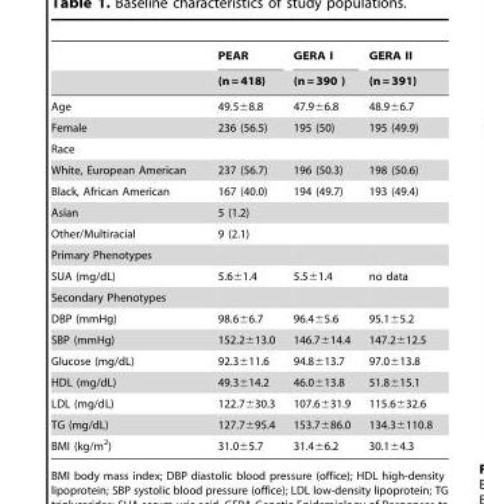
<table><thead><tr><td rowspan="2"></td><td rowspan="2">PEAR (n = 418)</td><td rowspan="2">GERA I (n = 390 )</td><td rowspan="2">GERA II (n = 391)</td></tr><tr></tr></thead><tbody><tr><td>Age</td><td>49.5±8.8</td><td>47.9±6.8</td><td>48.9±6.7</td></tr><tr><td>Female</td><td>236 (56.5)</td><td>195 (50)</td><td>195 (49.9)</td></tr><tr><td colspan="4">Race</td></tr><tr><td>White, European American</td><td>237 (56.7)</td><td>196 (50.3)</td><td>198 (50.6)</td></tr><tr><td>Black, African American</td><td>167 (40.0)</td><td>194 (49.7)</td><td>193 (49.4)</td></tr><tr><td>Asian</td><td>5 (1.2)</td><td></td><td></td></tr><tr><td>Other/Multiracial</td><td>9 (2.1)</td><td></td><td></td></tr><tr><td colspan="4">Primary Phenotypes</td></tr><tr><td>SUA (mg/dL)</td><td>5.6±1.4</td><td>5.5±1.4</td><td>no data</td></tr><tr><td colspan="4">Secondary Phenotypes</td></tr><tr><td>DBP (mmHg)</td><td>98.6±6.7</td><td>96.4±5.6</td><td>95.1±5.2</td></tr><tr><td>SBP (mmHg)</td><td>152.2±13.0</td><td>146.7±14.4</td><td>147.2±12.5</td></tr><tr><td>Glucose (mg/dL)</td><td>92.3±11.6</td><td>94.8±13.7</td><td>97.0±13.8</td></tr><tr><td>HDL (mg/dL)</td><td>49.3±14.2</td><td>46.0±13.8</td><td>51.8±15.1</td></tr><tr><td>LDL (mg/dL)</td><td>122.7±30.3</td><td>107.6±31.9</td><td>115.6±32.6</td></tr><tr><td>TG (mg/dL)</td><td>127.7±95.4</td><td>153.7±86.0</td><td>134.3±110.8</td></tr><tr><td>BMI (kg/m<sup>2</sup>)</td><td>31.0±5.7</td><td>31.4±6.2</td><td>30.1±4.3</td></tr></tbody></table>